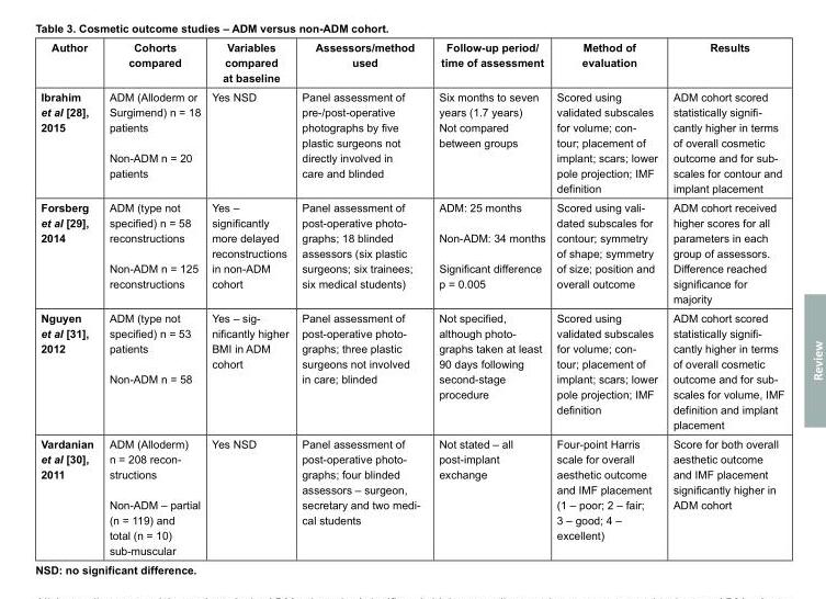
<table><thead><tr><td>Author</td><td>Cohorts compared</td><td>Variables compared at baseline</td><td>Assessors/method used</td><td>Follow-up period/ time of assessment</td><td>Method of evaluation</td><td>Results</td></tr></thead><tbody><tr><td>Ibrahim et al [28], 2015</td><td>ADM (Alloderm or Surgimend) n = 18 patients Non-ADM n = 20 patients</td><td>Yes NSD</td><td>Panel assessment of pre-/post-operative photographs by five plastic surgeons not directly involved in care and blinded</td><td>Six months to seven years (1.7 years) Not compared between groups</td><td>Scored using validated subscales for volume; con- tour; placement of implant; scars; lower pole projection; IMF definition</td><td>ADM cohort scored statistically signifi- cantly higher in terms of overall cosmetic outcome and for sub- scales for contour and implant placement</td></tr><tr><td>Forsberg et al [29], 2014</td><td>ADM (type not specified) n = 58 reconstructions Non-ADM n = 125 reconstructions</td><td>Yes – significantly more delayed reconstructions in non-ADM cohort</td><td>Panel assessment of post-operative photo- graphs; 18 blinded assessors (six plastic surgeons; six trainees; six medical students)</td><td>ADM: 25 months Non-ADM: 34 months Significant difference p = 0.005</td><td>Scored using vali- dated subscales for contour; symmetry of shape; symmetry of size; position and overall outcome</td><td>ADM cohort received higher scores for all parameters in each group of assessors. Difference reached significance for majority</td></tr><tr><td>Nguyen et al [31], 2012</td><td>ADM (type not specified) n = 53 patients Non-ADM n = 58</td><td>Yes – sig- nificantly higher BMI in ADM cohort</td><td>Panel assessment of post-operative photo- graphs; three plastic surgeons not involved in care; blinded</td><td>Not specified, although photo- graphs taken at least 90 days following second-stage procedure</td><td>Scored using validated subscales for volume; con- tour; placement of implant; scars; lower pole projection; IMF definition</td><td>ADM cohort scored statistically signifi- cantly higher in terms of overall cosmetic outcome and for sub- scales for volume, IMF definition and implant placement</td></tr><tr><td>Vardanian et al [30], 2011</td><td>ADM (Alloderm) n = 208 recon- structions Non-ADM – partial (n = 119) and total (n = 10) sub-muscular</td><td>Yes NSD</td><td>Panel assessment of post-operative photo- graphs; four blinded assessors – surgeon, secretary and two medi- cal students</td><td>Not stated – all post-implant exchange</td><td>Four-point Harris scale for overall aesthetic outcome and IMF placement (1 – poor; 2 – fair; 3 – good; 4 – excellent)</td><td>Score for both overall aesthetic outcome and IMF placement significantly higher in ADM cohort</td></tr></tbody></table>